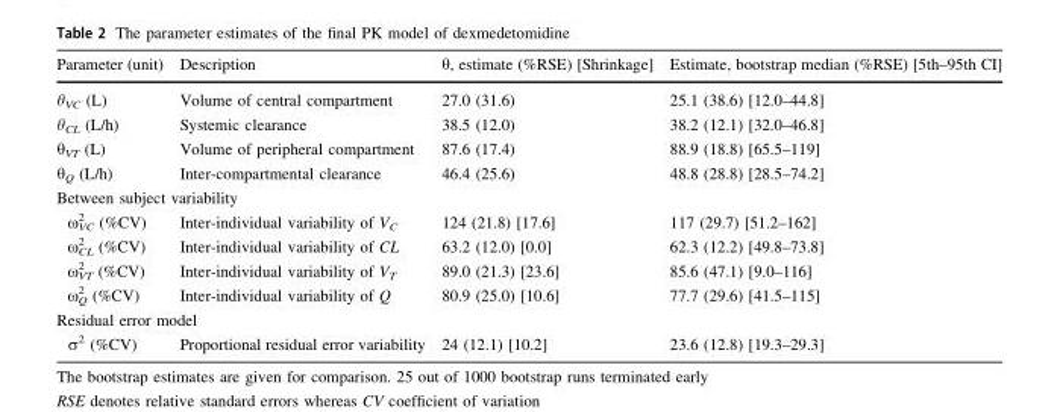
<table><thead><tr><td>Parameter (unit)</td><td>Description</td><td>θ, estimate (%RSE) [Shrinkage]</td><td>Estimate, bootstrap median (%RSE) [5th–95th CI]</td></tr></thead><tbody><tr><td>θ<sub>VC</sub> (L)</td><td>Volume of central compartment</td><td>27.0 (31.6)</td><td>25.1 (38.6) [12.0–44.8]</td></tr><tr><td>θ<sub>CL</sub> (L/h)</td><td>Systemic clearance</td><td>38.5 (12.0)</td><td>38.2 (12.1) [32.0–46.8]</td></tr><tr><td>θ<sub>VT</sub> (L)</td><td>Volume of peripheral compartment</td><td>87.6 (17.4)</td><td>88.9 (18.8) [65.5–119]</td></tr><tr><td>θ<sub>Q</sub> (L/h)</td><td>Inter-compartmental clearance</td><td>46.4 (25.6)</td><td>48.8 (28.8) [28.5–74.2]</td></tr><tr><td colspan="4">Between subject variability</td></tr><tr><td>ω<sub>VC</sub> <sup>2</sup> (%CV)</td><td>Inter-individual variability of V<sub>C</sub></td><td>124 (21.8) [17.6]</td><td>117 (29.7) [51.2–162]</td></tr><tr><td>ω<sub>CL</sub> <sup>2</sup> (%CV)</td><td>Inter-individual variability of CL</td><td>63.2 (12.0) [0.0]</td><td>62.3 (12.2) [49.8–73.8]</td></tr><tr><td>ω<sub>VT</sub> <sup>2</sup> (%CV)</td><td>Inter-individual variability of V<sub>T</sub></td><td>89.0 (21.3) [23.6]</td><td>85.6 (47.1) [9.0–116]</td></tr><tr><td>ω<sub>Q</sub> <sup>2</sup> (%CV)</td><td>Inter-individual variability of Q</td><td>80.9 (25.0) [10.6]</td><td>77.7 (29.6) [41.5–115]</td></tr><tr><td colspan="4">Residual error model</td></tr><tr><td>σ<sup>2</sup> (%CV)</td><td>Proportional residual error variability</td><td>24 (12.1) [10.2]</td><td>23.6 (12.8) [19.3–29.3]</td></tr></tbody></table>